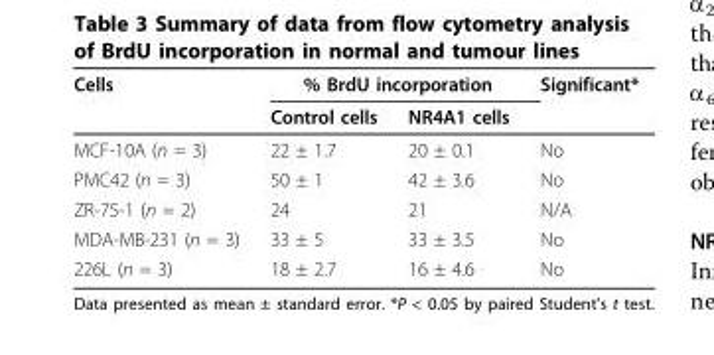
<table><thead><tr><td rowspan="2">Cells</td><td colspan="2">% BrdU incorporation</td><td rowspan="2">Significant*</td></tr><tr><td>Control cells</td><td>NR4A1 cells</td></tr></thead><tbody><tr><td>MCF-10A (n = 3)</td><td>22 ± 1.7</td><td>20 ± 0.1</td><td>No</td></tr><tr><td>PMC42 (n = 3)</td><td>50 ± 1</td><td>42 ± 3.6</td><td>No</td></tr><tr><td>ZR-75-1 (n = 2)</td><td>24</td><td>21</td><td>N/A</td></tr><tr><td>MDA-MB-231 (n = 3)</td><td>33 ± 5</td><td>33 ± 3.5</td><td>No</td></tr><tr><td>226L (n = 3)</td><td>18 ± 2.7</td><td>16 ± 4.6</td><td>No</td></tr></tbody></table>